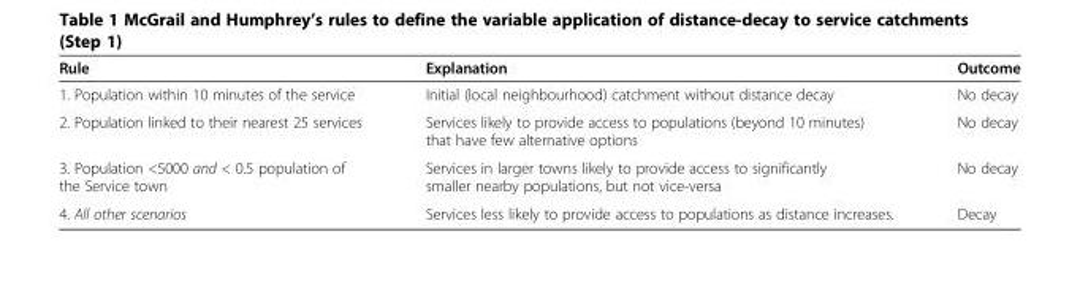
<table><thead><tr><td>Rule</td><td>Explanation</td><td>Outcome</td></tr></thead><tbody><tr><td>1. Population within 10 minutes of the service</td><td>Initial (local neighbourhood) catchment without distance decay</td><td>No decay</td></tr><tr><td>2. Population linked to their nearest 25 services</td><td>Services likely to provide access to populations (beyond 10 minutes) that have few alternative options</td><td>No decay</td></tr><tr><td>3. Population &lt;5000 and &lt; 0.5 population of the Service town</td><td>Services in larger towns likely to provide access to significantly smaller nearby populations, but not vice-versa</td><td>No decay</td></tr><tr><td>4. All other scenarios</td><td>Services less likely to provide access to populations as distance increases.</td><td>Decay</td></tr></tbody></table>